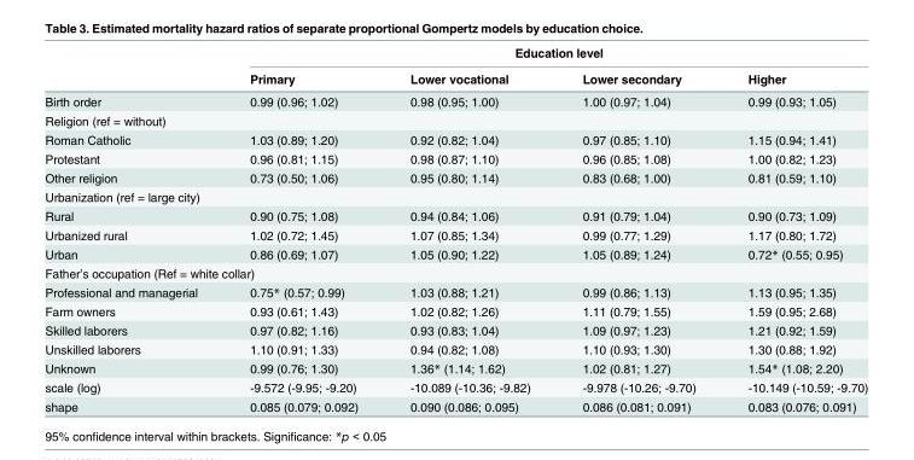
<table><thead><tr><td rowspan="2"></td><td colspan="4">Education level</td></tr><tr><td>Primary</td><td>Lower vocational</td><td>Lower secondary</td><td>Higher</td></tr></thead><tbody><tr><td>Birth order</td><td>0.99 (0.96; 1.02)</td><td>0.98 (0.95; 1.00)</td><td>1.00 (0.97; 1.04)</td><td>0.99 (0.93; 1.05)</td></tr><tr><td colspan="5">Religion (ref = without)</td></tr><tr><td>Roman Catholic</td><td>1.03 (0.89; 1.20)</td><td>0.92 (0.82; 1.04)</td><td>0.97 (0.85; 1.10)</td><td>1.15 (0.94; 1.41)</td></tr><tr><td>Protestant</td><td>0.96 (0.81; 1.15)</td><td>0.98 (0.87; 1.10)</td><td>0.96 (0.85; 1.08)</td><td>1.00 (0.82; 1.23)</td></tr><tr><td>Other religion</td><td>0.73 (0.50; 1.06)</td><td>0.95 (0.80; 1.14)</td><td>0.83 (0.68; 1.00)</td><td>0.81 (0.59; 1.10)</td></tr><tr><td colspan="5">Urbanization (ref = large city)</td></tr><tr><td>Rural</td><td>0.90 (0.75; 1.08)</td><td>0.94 (0.84; 1.06)</td><td>0.91 (0.79; 1.04)</td><td>0.90 (0.73; 1.09)</td></tr><tr><td>Urbanized rural</td><td>1.02 (0.72; 1.45)</td><td>1.07 (0.85; 1.34)</td><td>0.99 (0.77; 1.29)</td><td>1.17 (0.80; 1.72)</td></tr><tr><td>Urban</td><td>0.86 (0.69; 1.07)</td><td>1.05 (0.90; 1.22)</td><td>1.05 (0.89; 1.24)</td><td>0.72* (0.55; 0.95)</td></tr><tr><td colspan="5">Father’s occupation (Ref = white collar)</td></tr><tr><td>Professional and managerial</td><td>0.75* (0.57; 0.99)</td><td>1.03 (0.88; 1.21)</td><td>0.99 (0.86; 1.13)</td><td>1.13 (0.95; 1.35)</td></tr><tr><td>Farm owners</td><td>0.93 (0.61; 1.43)</td><td>1.02 (0.82; 1.26)</td><td>1.11 (0.79; 1.55)</td><td>1.59 (0.95; 2.68)</td></tr><tr><td>Skilled laborers</td><td>0.97 (0.82; 1.16)</td><td>0.93 (0.83; 1.04)</td><td>1.09 (0.97; 1.23)</td><td>1.21 (0.92; 1.59)</td></tr><tr><td>Unskilled laborers</td><td>1.10 (0.91; 1.33)</td><td>0.94 (0.82; 1.08)</td><td>1.10 (0.93; 1.30)</td><td>1.30 (0.88; 1.92)</td></tr><tr><td>Unknown</td><td>0.99 (0.76; 1.30)</td><td>1.36* (1.14; 1.62)</td><td>1.02 (0.81; 1.27)</td><td>1.54* (1.08; 2.20)</td></tr><tr><td>scale (log)</td><td>-9.572 (-9.95; -9.20)</td><td>-10.089 (-10.36; -9.82)</td><td>-9.978 (-10.26; -9.70)</td><td>-10.149 (-10.59; -9.70)</td></tr><tr><td>shape</td><td>0.085 (0.079; 0.092)</td><td>0.090 (0.086; 0.095)</td><td>0.086 (0.081; 0.091)</td><td>0.083 (0.076; 0.091)</td></tr></tbody></table>